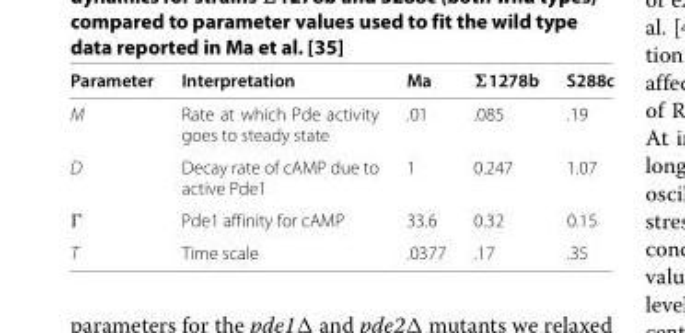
<table><thead><tr><td>Parameter</td><td>Interpretation</td><td>Ma</td><td>Σ1278b</td><td>S288c</td></tr></thead><tbody><tr><td>M</td><td>Rate at which Pde activity goes to steady state</td><td>.01</td><td>.085</td><td>.19</td></tr><tr><td>D</td><td>Decay rate of cAMP due to active Pde1</td><td>1</td><td>0.247</td><td>1.07</td></tr><tr><td>Γ</td><td>Pde1 affinity for cAMP</td><td>33.6</td><td>0.32</td><td>0.15</td></tr><tr><td>T</td><td>Time scale</td><td>.0377</td><td>.17</td><td>.35</td></tr></tbody></table>